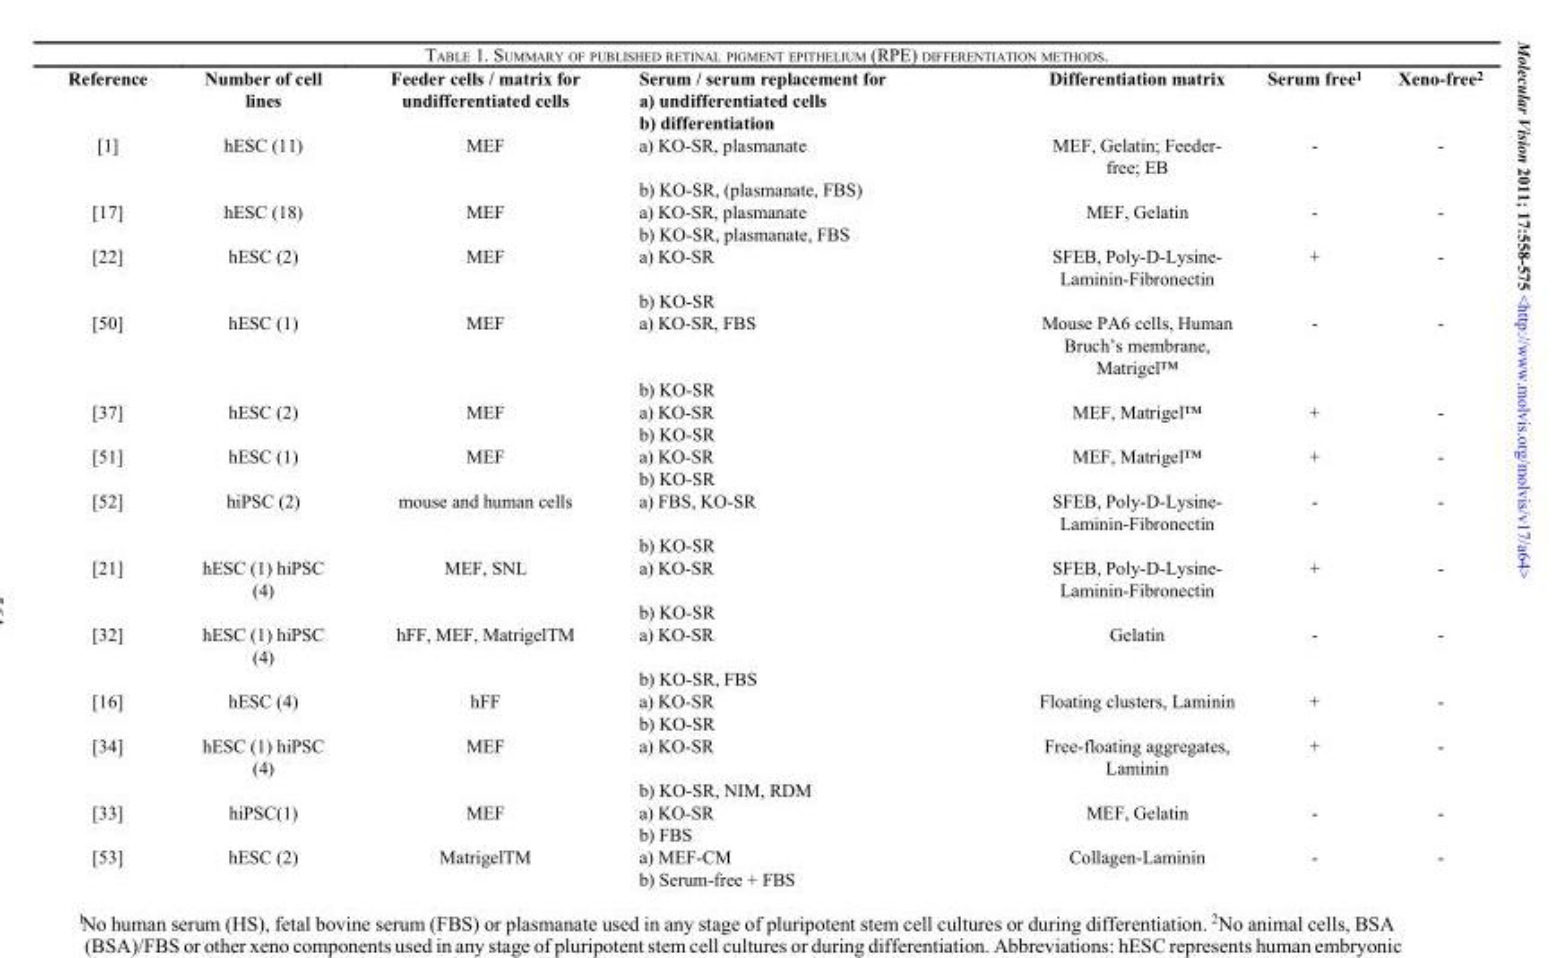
<table><thead><tr><td>Reference</td><td>Number of cell lines</td><td>Feeder cells / matrix for undifferentiated cells</td><td>Serum / serum replacement for a) undifferentiated cells b) differentiation</td><td>Differentiation matrix</td><td>Serum free<sup>1</sup></td><td>Xeno-free<sup>2</sup></td></tr></thead><tbody><tr><td rowspan="2">[1]</td><td>hESC (11)</td><td>MEF</td><td>a) KO-SR, plasmanate</td><td>MEF, Gelatin; Feeder- free; EB</td><td>-</td><td>-</td></tr><tr><td></td><td></td><td>b) KO-SR, (plasmanate, FBS)</td><td></td><td></td><td></td></tr><tr><td rowspan="2">[17]</td><td>hESC (18)</td><td>MEF</td><td>a) KO-SR, plasmanate</td><td>MEF, Gelatin</td><td>-</td><td>-</td></tr><tr><td></td><td></td><td>b) KO-SR, plasmanate, FBS</td><td></td><td></td><td></td></tr><tr><td rowspan="2">[22]</td><td>hESC (2)</td><td>MEF</td><td>a) KO-SR</td><td>SFEB, Poly-D-Lysine- Laminin-Fibronectin</td><td>+</td><td>-</td></tr><tr><td></td><td></td><td>b) KO-SR</td><td></td><td></td><td></td></tr><tr><td rowspan="2">[50]</td><td>hESC (1)</td><td>MEF</td><td>a) KO-SR, FBS</td><td>Mouse PA6 cells, Human Bruch’s membrane, Matrigel™</td><td>-</td><td>-</td></tr><tr><td></td><td></td><td>b) KO-SR</td><td></td><td></td><td></td></tr><tr><td rowspan="2">[37]</td><td>hESC (2)</td><td>MEF</td><td>a) KO-SR</td><td>MEF, Matrigel™</td><td>+</td><td>-</td></tr><tr><td></td><td></td><td>b) KO-SR</td><td></td><td></td><td></td></tr><tr><td rowspan="2">[51]</td><td>hESC (1)</td><td>MEF</td><td>a) KO-SR</td><td>MEF, Matrigel™</td><td>+</td><td>-</td></tr><tr><td></td><td></td><td>b) KO-SR</td><td></td><td></td><td></td></tr><tr><td rowspan="2">[52]</td><td>hiPSC (2)</td><td>mouse and human cells</td><td>a) FBS, KO-SR</td><td>SFEB, Poly-D-Lysine- Laminin-Fibronectin</td><td>-</td><td>-</td></tr><tr><td></td><td></td><td>b) KO-SR</td><td></td><td></td><td></td></tr><tr><td rowspan="2">[21]</td><td>hESC (1) hiPSC (4)</td><td>MEF, SNL</td><td>a) KO-SR</td><td>SFEB, Poly-D-Lysine- Laminin-Fibronectin</td><td>+</td><td>-</td></tr><tr><td></td><td></td><td>b) KO-SR</td><td></td><td></td><td></td></tr><tr><td rowspan="2">[32]</td><td>hESC (1) hiPSC (4)</td><td>hFF, MEF, MatrigelTM</td><td>a) KO-SR</td><td>Gelatin</td><td>-</td><td>-</td></tr><tr><td></td><td></td><td>b) KO-SR, FBS</td><td></td><td></td><td></td></tr><tr><td rowspan="2">[16]</td><td>hESC (4)</td><td>hFF</td><td>a) KO-SR</td><td>Floating clusters, Laminin</td><td>+</td><td>-</td></tr><tr><td></td><td></td><td>b) KO-SR</td><td></td><td></td><td></td></tr><tr><td rowspan="2">[34]</td><td>hESC (1) hiPSC (4)</td><td>MEF</td><td>a) KO-SR</td><td>Free-floating aggregates, Laminin</td><td>+</td><td>-</td></tr><tr><td></td><td></td><td>b) KO-SR, NIM, RDM</td><td></td><td></td><td></td></tr><tr><td rowspan="2">[33]</td><td>hiPSC(1)</td><td>MEF</td><td>a) KO-SR</td><td>MEF, Gelatin</td><td>-</td><td>-</td></tr><tr><td></td><td></td><td>b) FBS</td><td></td><td></td><td></td></tr><tr><td rowspan="2">[53]</td><td>hESC (2)</td><td>MatrigelTM</td><td>a) MEF-CM</td><td>Collagen-Laminin</td><td>-</td><td>-</td></tr><tr><td></td><td></td><td>b) Serum-free + FBS</td><td></td><td></td><td></td></tr></tbody></table>